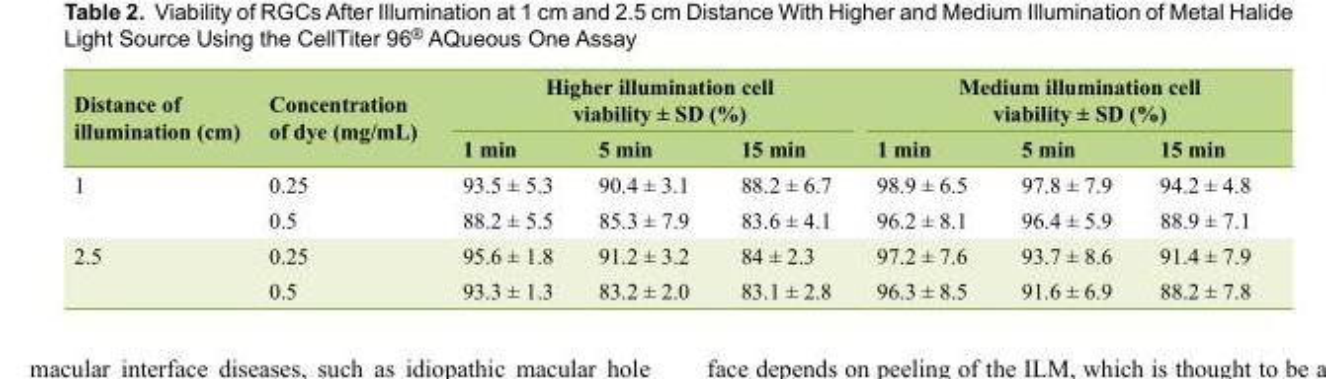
<table><thead><tr><td rowspan="2">Distance of illumination (cm)</td><td rowspan="2">Concentration of dye (mg/mL)</td><td colspan="3">Higher illumination cell viability ± SD (%)</td><td colspan="3">Medium illumination cell viability ± SD (%)</td></tr><tr><td>1 min</td><td>5 min</td><td>15 min</td><td>1 min</td><td>5 min</td><td>15 min</td></tr></thead><tbody><tr><td rowspan="2">1</td><td>0.25</td><td>93.5 ± 5.3</td><td>90.4 ± 3.1</td><td>88.2 ± 6.7</td><td>98.9 ± 6.5</td><td>97.8 ± 7.9</td><td>94.2 ± 4.8</td></tr><tr><td>0.5</td><td>88.2 ± 5.5</td><td>85.3 ± 7.9</td><td>83.6 ± 4.1</td><td>96.2 ± 8.1</td><td>96.4 ± 5.9</td><td>88.9 ± 7.1</td></tr><tr><td rowspan="2">2.5</td><td>0.25</td><td>95.6 ± 1.8</td><td>91.2 ± 3.2</td><td>84 ± 2.3</td><td>97.2 ± 7.6</td><td>93.7 ± 8.6</td><td>91.4 ± 7.9</td></tr><tr><td>0.5</td><td>93.3 ± 1.3</td><td>83.2 ± 2.0</td><td>83.1 ± 2.8</td><td>96.3 ± 8.5</td><td>91.6 ± 6.9</td><td>88.2 ± 7.8</td></tr></tbody></table>